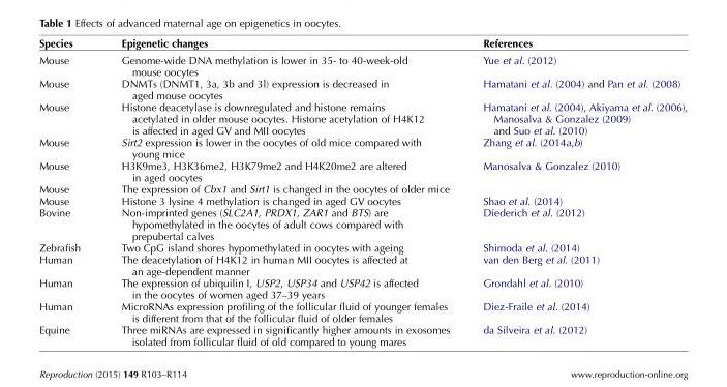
<table><thead><tr><td>Species</td><td>Epigenetic changes</td><td>References</td></tr></thead><tbody><tr><td>Mouse</td><td>Genome-wide DNA methylation is lower in 35- to 40-week-old mouse oocytes</td><td>Yue et al. (2012)</td></tr><tr><td>Mouse</td><td>DNMTs (DNMT1, 3a, 3b and 3l) expression is decreased in aged mouse oocytes</td><td>Hamatani et al. (2004) and Pan et al. (2008)</td></tr><tr><td>Mouse</td><td>Histone deacetylase is downregulated and histone remains acetylated in older mouse oocytes. Histone acetylation of H4K12 is affected in aged GV and MII oocytes</td><td>Hamatani et al. (2004), Akiyama et al. (2006), Manosalva &amp; Gonzalez (2009) and Suo et al. (2010)</td></tr><tr><td>Mouse</td><td>Sirt2 expression is lower in the oocytes of old mice compared with young mice</td><td>Zhang et al. (2014a,b)</td></tr><tr><td>Mouse</td><td>H3K9me3, H3K36me2, H3K79me2 and H4K20me2 are altered in aged oocytes</td><td>Manosalva &amp; Gonzalez (2010)</td></tr><tr><td>Mouse</td><td>The expression of Cbx1 and Sirt1 is changed in the oocytes of older mice</td><td></td></tr><tr><td>Mouse</td><td>Histone 3 lysine 4 methylation is changed in aged GV oocytes</td><td>Shao et al. (2014)</td></tr><tr><td>Bovine</td><td>Non-imprinted genes (SLC2A1, PRDX1, ZAR1 and BTS) are hypomethylated in the oocytes of adult cows compared with prepubertal calves</td><td>Diederich et al. (2012)</td></tr><tr><td>Zebrafish</td><td>Two CpG island shores hypomethylated in oocytes with ageing</td><td>Shimoda et al. (2014)</td></tr><tr><td>Human</td><td>The deacetylation of H4K12 in human MII oocytes is affected at an age-dependent manner</td><td>van den Berg et al. (2011)</td></tr><tr><td>Human</td><td>The expression of ubiquilin I, USP2, USP34 and USP42 is affected in the oocytes of women aged 37–39 years</td><td>Grondahl et al. (2010)</td></tr><tr><td>Human</td><td>MicroRNAs expression profiling of the follicular fluid of younger females is different from that of the follicular fluid of older females</td><td>Diez-Fraile et al. (2014)</td></tr><tr><td>Equine</td><td>Three miRNAs are expressed in significantly higher amounts in exosomes isolated from follicular fluid of old compared to young mares</td><td>da Silveira et al. (2012)</td></tr></tbody></table>